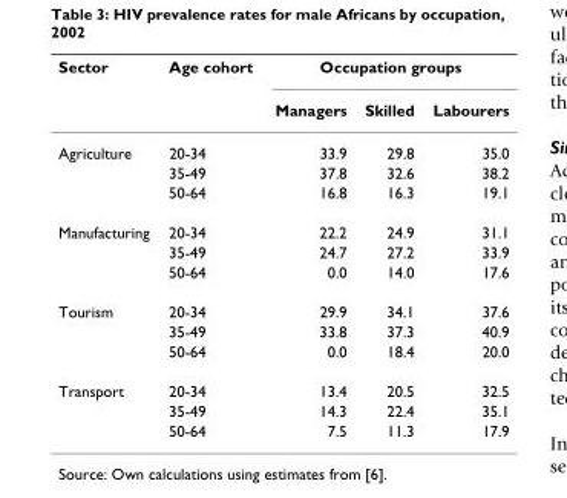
<table><thead><tr><td rowspan="2">Sector</td><td rowspan="2">Age cohort</td><td colspan="3">Occupation groups</td></tr><tr><td>Managers</td><td>Skilled</td><td>Labourers</td></tr></thead><tbody><tr><td rowspan="3">Agriculture</td><td>20-34</td><td>33.9</td><td>29.8</td><td>35.0</td></tr><tr><td>35-49</td><td>37.8</td><td>32.6</td><td>38.2</td></tr><tr><td>50-64</td><td>16.8</td><td>16.3</td><td>19.1</td></tr><tr><td rowspan="3">Manufacturing</td><td>20-34</td><td>22.2</td><td>24.9</td><td>31.1</td></tr><tr><td>35-49</td><td>24.7</td><td>27.2</td><td>33.9</td></tr><tr><td>50-64</td><td>0.0</td><td>14.0</td><td>17.6</td></tr><tr><td rowspan="3">Tourism</td><td>20-34</td><td>29.9</td><td>34.1</td><td>37.6</td></tr><tr><td>35-49</td><td>33.8</td><td>37.3</td><td>40.9</td></tr><tr><td>50-64</td><td>0.0</td><td>18.4</td><td>20.0</td></tr><tr><td rowspan="3">Transport</td><td>20-34</td><td>13.4</td><td>20.5</td><td>32.5</td></tr><tr><td>35-49</td><td>14.3</td><td>22.4</td><td>35.1</td></tr><tr><td>50-64</td><td>7.5</td><td>11.3</td><td>17.9</td></tr></tbody></table>